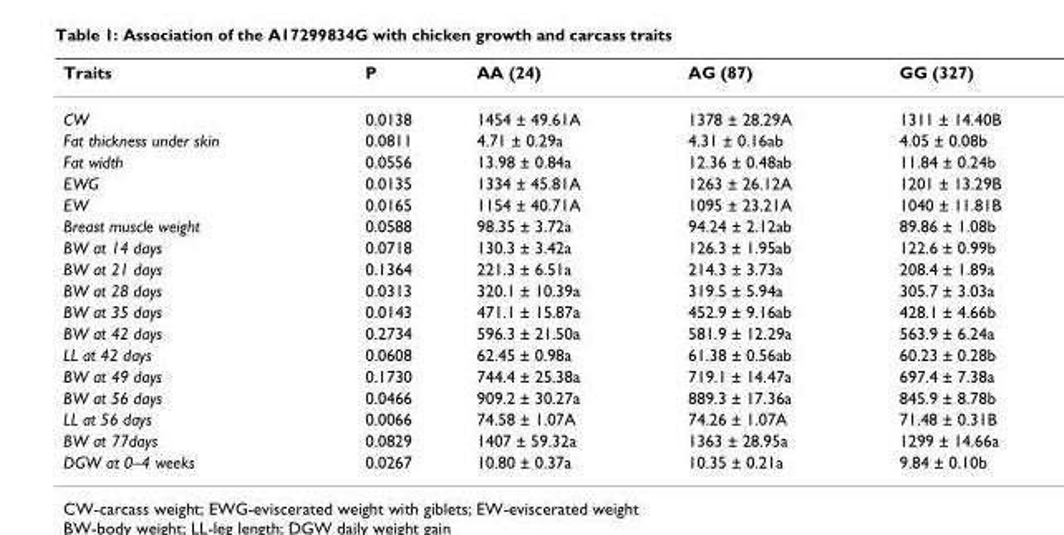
<table><thead><tr><td>Traits</td><td>P</td><td>AA (24)</td><td>AG (87)</td><td>GG (327)</td></tr></thead><tbody><tr><td>CW</td><td>0.0138</td><td>1454 ± 49.61A</td><td>1378 ± 28.29A</td><td>1311 ± 14.40B</td></tr><tr><td>Fat thickness under skin</td><td>0.0811</td><td>4.71 ± 0.29a</td><td>4.31 ± 0.16ab</td><td>4.05 ± 0.08b</td></tr><tr><td>Fat width</td><td>0.0556</td><td>13.98 ± 0.84a</td><td>12.36 ± 0.48ab</td><td>11.84 ± 0.24b</td></tr><tr><td>EWG</td><td>0.0135</td><td>1334 ± 45.81A</td><td>1263 ± 26.12A</td><td>1201 ± 13.29B</td></tr><tr><td>EW</td><td>0.0165</td><td>1154 ± 40.71A</td><td>1095 ± 23.21A</td><td>1040 ± 11.81B</td></tr><tr><td>Breast muscle weight</td><td>0.0588</td><td>98.35 ± 3.72a</td><td>94.24 ± 2.12ab</td><td>89.86 ± 1.08b</td></tr><tr><td>BW at 14 days</td><td>0.0718</td><td>130.3 ± 3.42a</td><td>126.3 ± 1.95ab</td><td>122.6 ± 0.99b</td></tr><tr><td>BW at 21 days</td><td>0.1364</td><td>221.3 ± 6.51a</td><td>214.3 ± 3.73a</td><td>208.4 ± 1.89a</td></tr><tr><td>BW at 28 days</td><td>0.0313</td><td>320.1 ± 10.39a</td><td>319.5 ± 5.94a</td><td>305.7 ± 3.03a</td></tr><tr><td>BW at 35 days</td><td>0.0143</td><td>471.1 ± 15.87a</td><td>452.9 ± 9.16ab</td><td>428.1 ± 4.66b</td></tr><tr><td>BW at 42 days</td><td>0.2734</td><td>596.3 ± 21.50a</td><td>581.9 ± 12.29a</td><td>563.9 ± 6.24a</td></tr><tr><td>LL at 42 days</td><td>0.0608</td><td>62.45 ± 0.98a</td><td>61.38 ± 0.56ab</td><td>60.23 ± 0.28b</td></tr><tr><td>BW at 49 days</td><td>0.1730</td><td>744.4 ± 25.38a</td><td>719.1 ± 14.47a</td><td>697.4 ± 7.38a</td></tr><tr><td>BW at 56 days</td><td>0.0466</td><td>909.2 ± 30.27a</td><td>889.3 ± 17.36a</td><td>845.9 ± 8.78b</td></tr><tr><td>LL at 56 days</td><td>0.0066</td><td>74.58 ± 1.07A</td><td>74.26 ± 1.07A</td><td>71.48 ± 0.31B</td></tr><tr><td>BW at 77days</td><td>0.0829</td><td>1407 ± 59.32a</td><td>1363 ± 28.95a</td><td>1299 ± 14.66a</td></tr><tr><td>DGW at 0–4 weeks</td><td>0.0267</td><td>10.80 ± 0.37a</td><td>10.35 ± 0.21a</td><td>9.84 ± 0.10b</td></tr></tbody></table>